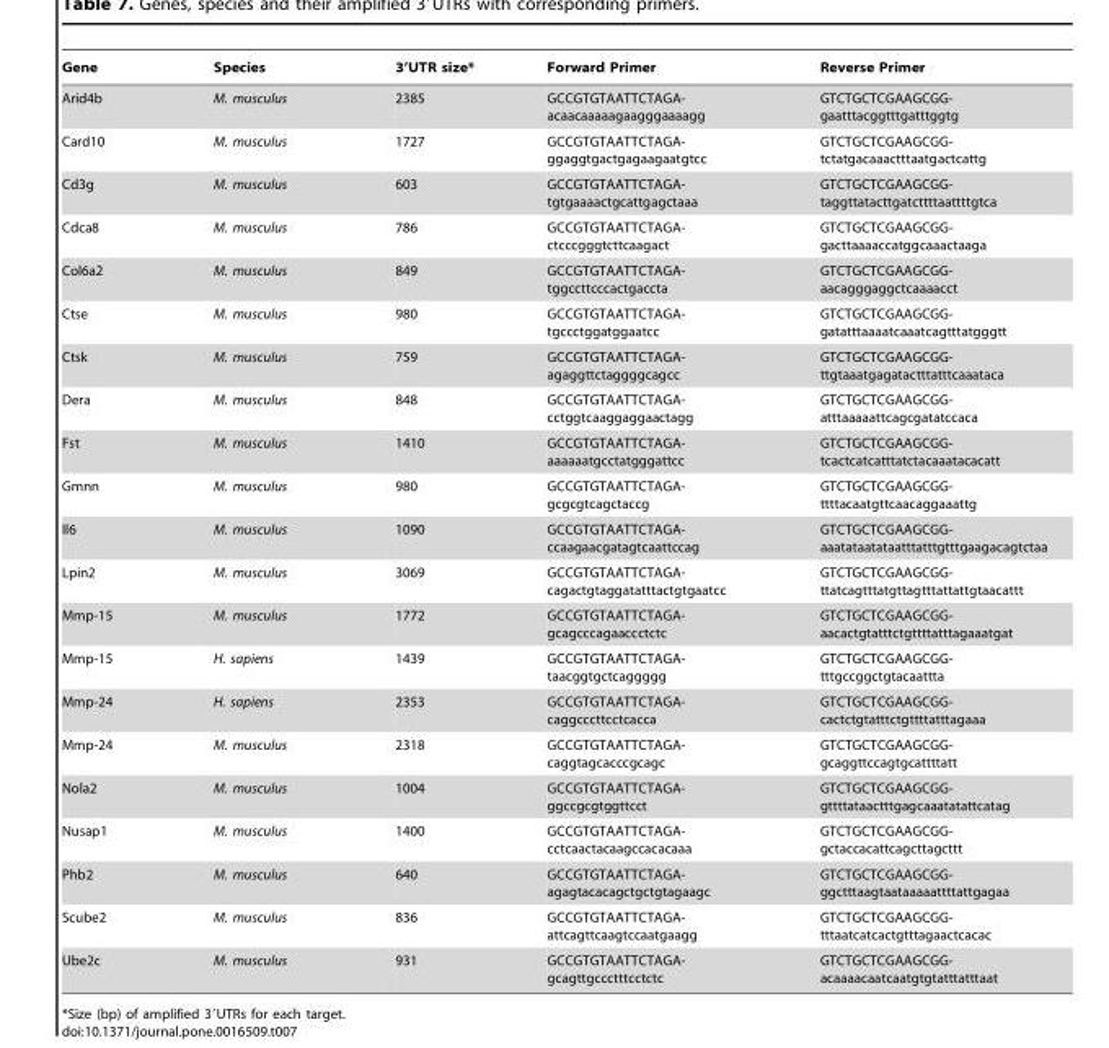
<table><thead><tr><td>Gene</td><td>Species</td><td>3’UTR size*</td><td>Forward Primer</td><td>Reverse Primer</td></tr></thead><tbody><tr><td>Arid4b</td><td>M. musculus</td><td>2385</td><td>GCCGTGTAATTCTAGA- acaacaaaaagaagggaaaagg</td><td>GTCTGCTCGAAGCGG- gaatttacggtttgatttggtg</td></tr><tr><td>Card10</td><td>M. musculus</td><td>1727</td><td>GCCGTGTAATTCTAGA- ggaggtgactgagaagaatgtcc</td><td>GTCTGCTCGAAGCGG- tctatgacaaactttaatgactcattg</td></tr><tr><td>Cd3g</td><td>M. musculus</td><td>603</td><td>GCCGTGTAATTCTAGA- tgtgaaaactgcattgagctaaa</td><td>GTCTGCTCGAAGCGG- taggttatacttgatcttttaattttgtca</td></tr><tr><td>Cdca8</td><td>M. musculus</td><td>786</td><td>GCCGTGTAATTCTAGA- ctcccgggtcttcaagact</td><td>GTCTGCTCGAAGCGG- gacttaaaaccatggcaaactaaga</td></tr><tr><td>Col6a2</td><td>M. musculus</td><td>849</td><td>GCCGTGTAATTCTAGA- tggccttcccactgaccta</td><td>GTCTGCTCGAAGCGG- aacagggaggctcaaaacct</td></tr><tr><td>Ctse</td><td>M. musculus</td><td>980</td><td>GCCGTGTAATTCTAGA- tgccctggatggaatcc</td><td>GTCTGCTCGAAGCGG- gatatttaaaatcaaatcagtttatgggtt</td></tr><tr><td>Ctsk</td><td>M. musculus</td><td>759</td><td>GCCGTGTAATTCTAGA- agaggttctaggggcagcc</td><td>GTCTGCTCGAAGCGG- ttgtaaatgagatactttatttcaaataca</td></tr><tr><td>Dera</td><td>M. musculus</td><td>848</td><td>GCCGTGTAATTCTAGA- cctggtcaaggaggaactagg</td><td>GTCTGCTCGAAGCGG- atttaaaaattcagcgatatccaca</td></tr><tr><td>Fst</td><td>M. musculus</td><td>1410</td><td>GCCGTGTAATTCTAGA- aaaaaatgcctatgggattcc</td><td>GTCTGCTCGAAGCGG- tcactcatcatttatctacaaatacacatt</td></tr><tr><td>Gmnn</td><td>M. musculus</td><td>980</td><td>GCCGTGTAATTCTAGA- gcgcgtcagctaccg</td><td>GTCTGCTCGAAGCGG- ttttacaatgttcaacaggaaattg</td></tr><tr><td>Il6</td><td>M. musculus</td><td>1090</td><td>GCCGTGTAATTCTAGA- ccaagaacgatagtcaattccag</td><td>GTCTGCTCGAAGCGG- aaatataatataatttatttgtttgaagacagtctaa</td></tr><tr><td>Lpin2</td><td>M. musculus</td><td>3069</td><td>GCCGTGTAATTCTAGA- cagactgtaggatatttactgtgaatcc</td><td>GTCTGCTCGAAGCGG- ttatcagtttatgttagtttattattgtaacattt</td></tr><tr><td>Mmp-15</td><td>M. musculus</td><td>1772</td><td>GCCGTGTAATTCTAGA- gcagcccagaaccctctc</td><td>GTCTGCTCGAAGCGG- aacactgtatttctgttttatttagaaatgat</td></tr><tr><td>Mmp-15</td><td>H. sapiens</td><td>1439</td><td>GCCGTGTAATTCTAGA- taacggtgctcaggggg</td><td>GTCTGCTCGAAGCGG- tttgccggctgtacaattta</td></tr><tr><td>Mmp-24</td><td>H. sapiens</td><td>2353</td><td>GCCGTGTAATTCTAGA- caggcccttcctcacca</td><td>GTCTGCTCGAAGCGG- cactctgtatttctgttttatttagaaa</td></tr><tr><td>Mmp-24</td><td>M. musculus</td><td>2318</td><td>GCCGTGTAATTCTAGA- caggtagcacccgcagc</td><td>GTCTGCTCGAAGCGG- gcaggttccagtgcattttatt</td></tr><tr><td>Nola2</td><td>M. musculus</td><td>1004</td><td>GCCGTGTAATTCTAGA- ggccgcgtggttcct</td><td>GTCTGCTCGAAGCGG- gttttataactttgagcaaatatattcatag</td></tr><tr><td>Nusap1</td><td>M. musculus</td><td>1400</td><td>GCCGTGTAATTCTAGA- cctcaactacaagccacacaaa</td><td>GTCTGCTCGAAGCGG- gctaccacattcagcttagcttt</td></tr><tr><td>Phb2</td><td>M. musculus</td><td>640</td><td>GCCGTGTAATTCTAGA- agagtacacagctgctgtagaagc</td><td>GTCTGCTCGAAGCGG- ggctttaagtaataaaaattttattgagaa</td></tr><tr><td>Scube2</td><td>M. musculus</td><td>836</td><td>GCCGTGTAATTCTAGA- attcagttcaagtccaatgaagg</td><td>GTCTGCTCGAAGCGG- tttaatcatcactgtttagaactcacac</td></tr><tr><td>Ube2c</td><td>M. musculus</td><td>931</td><td>GCCGTGTAATTCTAGA- gcagttgccctttcctctc</td><td>GTCTGCTCGAAGCGG- acaaaacaatcaatgtgtatttatttaat</td></tr></tbody></table>